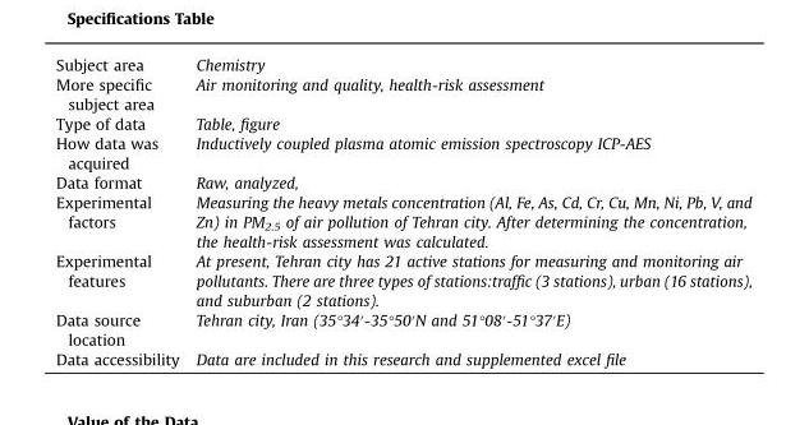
<table><tbody><tr><td>Subject area</td><td>Chemistry</td></tr><tr><td>More specific subject area</td><td>Air monitoring and quality, health-risk assessment</td></tr><tr><td>Type of data</td><td>Table, figure</td></tr><tr><td>How data was acquired</td><td>Inductively coupled plasma atomic emission spectroscopy ICP-AES</td></tr><tr><td>Data format</td><td>Raw, analyzed,</td></tr><tr><td>Experimental factors</td><td>Measuring the heavy metals concentration (Al, Fe, As, Cd, Cr, Cu, Mn, Ni, Pb, V, and Zn) in PM<sub>2.5</sub> of air pollution of Tehran city. After determining the concentration, the health-risk assessment was calculated.</td></tr><tr><td>Experimental features</td><td>At present, Tehran city has 21 active stations for measuring and monitoring air pollutants. There are three types of stations:traffic (3 stations), urban (16 stations), and suburban (2 stations).</td></tr><tr><td>Data source location</td><td>Tehran city, Iran (35°34′-35°50′N and 51°08′-51°37′E)</td></tr><tr><td>Data accessibility</td><td>Data are included in this research and supplemented excel file</td></tr></tbody></table>